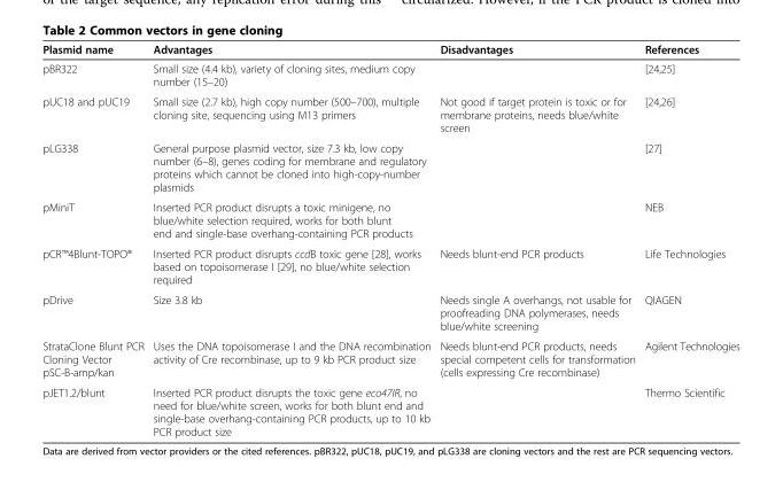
<table><thead><tr><td>Plasmid name</td><td>Advantages</td><td>Disadvantages</td><td>References</td></tr></thead><tbody><tr><td>pBR322</td><td>Small size (4.4 kb), variety of cloning sites, medium copy number (15–20)</td><td></td><td>[24,25]</td></tr><tr><td>pUC18 and pUC19</td><td>Small size (2.7 kb), high copy number (500–700), multiple cloning site, sequencing using M13 primers</td><td>Not good if target protein is toxic or for membrane proteins, needs blue/white screen</td><td>[24,26]</td></tr><tr><td>pLG338</td><td>General purpose plasmid vector, size 7.3 kb, low copy number (6–8), genes coding for membrane and regulatory proteins which cannot be cloned into high-copy-number plasmids</td><td></td><td>[27]</td></tr><tr><td>pMiniT</td><td>Inserted PCR product disrupts a toxic minigene, no blue/white selection required, works for both blunt end and single-base overhang-containing PCR products</td><td></td><td>NEB</td></tr><tr><td>pCR™4Blunt-TOPO®</td><td>Inserted PCR product disrupts ccdB toxic gene [28], works based on topoisomerase I [29], no blue/white selection required</td><td>Needs blunt-end PCR products</td><td>Life Technologies</td></tr><tr><td>pDrive</td><td>Size 3.8 kb</td><td>Needs single A overhangs, not usable for proofreading DNA polymerases, needs blue/white screening</td><td>QIAGEN</td></tr><tr><td>StrataClone Blunt PCR Cloning Vector pSC-B-amp/kan</td><td>Uses the DNA topoisomerase I and the DNA recombination activity of Cre recombinase, up to 9 kb PCR product size</td><td>Needs blunt-end PCR products, needs special competent cells for transformation (cells expressing Cre recombinase)</td><td>Agilent Technologies</td></tr><tr><td>pJET1.2/blunt</td><td>Inserted PCR product disrupts the toxic gene eco47IR, no need for blue/white screen, works for both blunt end and single-base overhang-containing PCR products, up to 10 kb PCR product size</td><td></td><td>Thermo Scientific</td></tr></tbody></table>